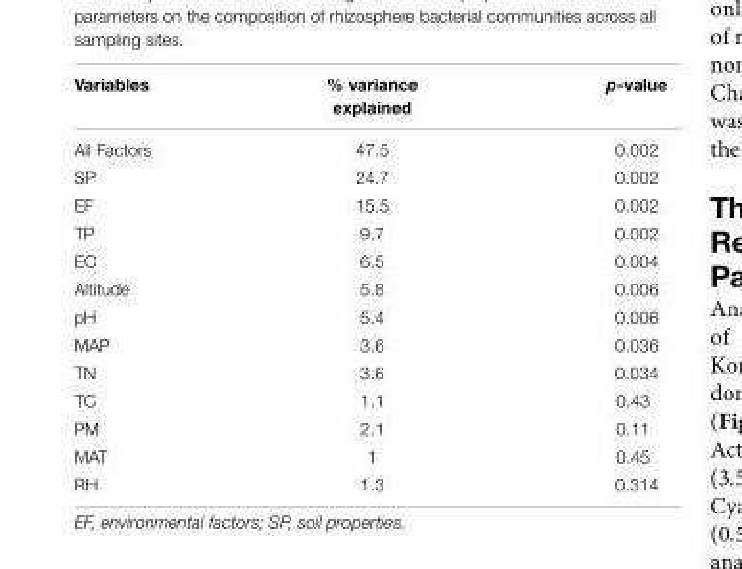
<table><thead><tr><td>Variables</td><td>% variance explained</td><td>p-value</td></tr></thead><tbody><tr><td>All Factors</td><td>47.5</td><td>0.002</td></tr><tr><td>SP</td><td>24.7</td><td>0.002</td></tr><tr><td>EF</td><td>15.5</td><td>0.002</td></tr><tr><td>TP</td><td>9.7</td><td>0.002</td></tr><tr><td>EC</td><td>6.5</td><td>0.004</td></tr><tr><td>Altitude</td><td>5.8</td><td>0.006</td></tr><tr><td>pH</td><td>5.4</td><td>0.006</td></tr><tr><td>MAP</td><td>3.6</td><td>0.036</td></tr><tr><td>TN</td><td>3.6</td><td>0.034</td></tr><tr><td>TC</td><td>1.1</td><td>0.43</td></tr><tr><td>PM</td><td>2.1</td><td>0.11</td></tr><tr><td>MAT</td><td>1</td><td>0.45</td></tr><tr><td>RH</td><td>1.3</td><td>0.314</td></tr></tbody></table>